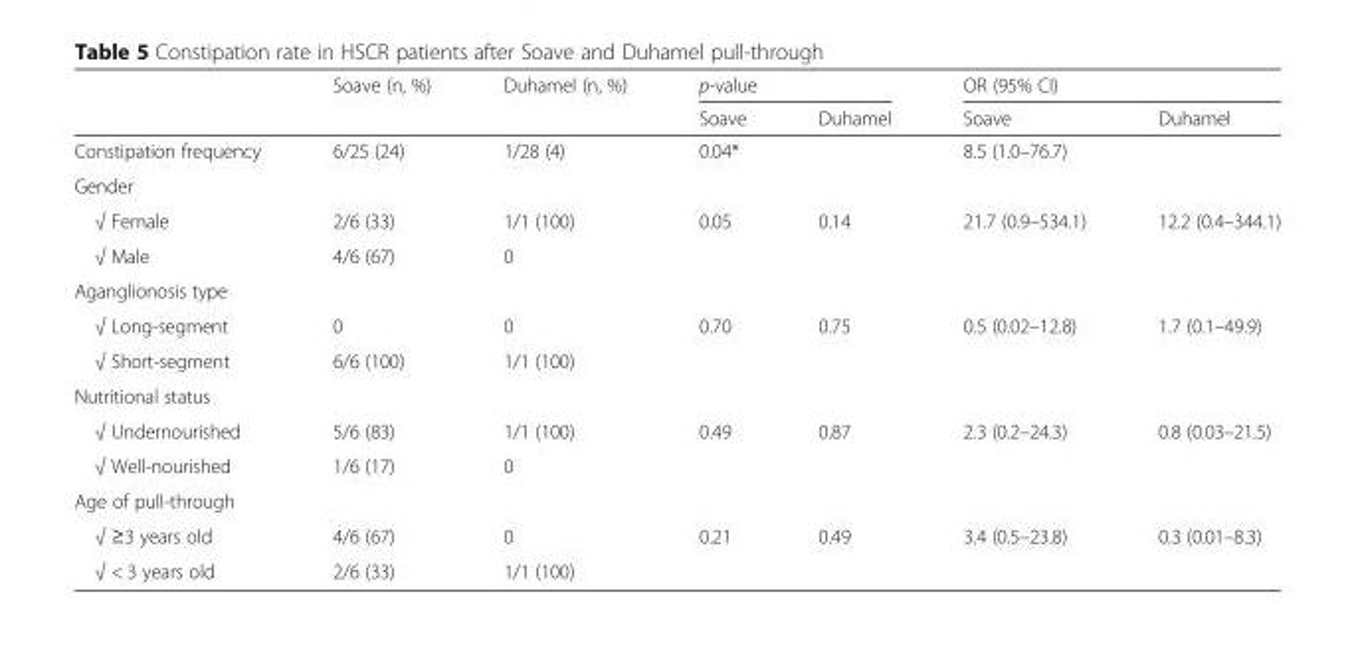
<table><thead><tr><td rowspan="2"></td><td rowspan="2">Soave (n, %)</td><td rowspan="2">Duhamel (n, %)</td><td colspan="2">p-value</td><td colspan="2">OR (95% CI)</td></tr><tr><td>Soave</td><td>Duhamel</td><td>Soave</td><td>Duhamel</td></tr></thead><tbody><tr><td>Constipation frequency</td><td>6/25 (24)</td><td>1/28 (4)</td><td>0.04*</td><td></td><td>8.5 (1.0–76.7)</td><td></td></tr><tr><td colspan="7">Gender</td></tr><tr><td>√ Female</td><td>2/6 (33)</td><td>1/1 (100)</td><td>0.05</td><td>0.14</td><td>21.7 (0.9–534.1)</td><td>12.2 (0.4–344.1)</td></tr><tr><td>√ Male</td><td>4/6 (67)</td><td>0</td><td></td><td></td><td></td><td></td></tr><tr><td colspan="7">Aganglionosis type</td></tr><tr><td>√ Long-segment</td><td>0</td><td>0</td><td>0.70</td><td>0.75</td><td>0.5 (0.02–12.8)</td><td>1.7 (0.1–49.9)</td></tr><tr><td>√ Short-segment</td><td>6/6 (100)</td><td>1/1 (100)</td><td></td><td></td><td></td><td></td></tr><tr><td colspan="7">Nutritional status</td></tr><tr><td>√ Undernourished</td><td>5/6 (83)</td><td>1/1 (100)</td><td>0.49</td><td>0.87</td><td>2.3 (0.2–24.3)</td><td>0.8 (0.03–21.5)</td></tr><tr><td>√ Well-nourished</td><td>1/6 (17)</td><td>0</td><td></td><td></td><td></td><td></td></tr><tr><td colspan="7">Age of pull-through</td></tr><tr><td>√ ≥3 years old</td><td>4/6 (67)</td><td>0</td><td>0.21</td><td>0.49</td><td>3.4 (0.5–23.8)</td><td>0.3 (0.01–8.3)</td></tr><tr><td>√ &lt; 3 years old</td><td>2/6 (33)</td><td>1/1 (100)</td><td></td><td></td><td></td><td></td></tr></tbody></table>